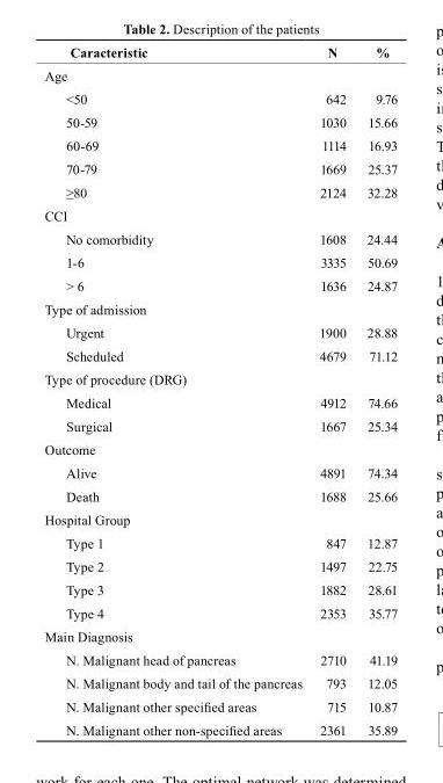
<table><thead><tr><td>caracteristic</td><td>N</td><td>%</td></tr></thead><tbody><tr><td colspan="3">Age</td></tr><tr><td>&lt;50</td><td>642</td><td>9.76</td></tr><tr><td>50-59</td><td>1030</td><td>15.66</td></tr><tr><td>60-69</td><td>1114</td><td>16.93</td></tr><tr><td>70-79</td><td>1669</td><td>25.37</td></tr><tr><td>≥80</td><td>2124</td><td>32.28</td></tr><tr><td colspan="3">CCI</td></tr><tr><td>No comorbidity</td><td>1608</td><td>24.44</td></tr><tr><td>1-6</td><td>3335</td><td>50.69</td></tr><tr><td>&gt; 6</td><td>1636</td><td>24.87</td></tr><tr><td colspan="3">Type of admission</td></tr><tr><td>Urgent</td><td>1900</td><td>28.88</td></tr><tr><td>Scheduled</td><td>4679</td><td>71.12</td></tr><tr><td colspan="3">Type of procedure (DRG)</td></tr><tr><td>Medical</td><td>4912</td><td>74.66</td></tr><tr><td>Surgical</td><td>1667</td><td>25.34</td></tr><tr><td colspan="3">Outcome</td></tr><tr><td>Alive</td><td>4891</td><td>74.34</td></tr><tr><td>Death</td><td>1688</td><td>25.66</td></tr><tr><td colspan="3">Hospital Group</td></tr><tr><td>Type 1</td><td>847</td><td>12.87</td></tr><tr><td>Type 2</td><td>1497</td><td>22.75</td></tr><tr><td>Type 3</td><td>1882</td><td>28.61</td></tr><tr><td>Type 4</td><td>2353</td><td>35.77</td></tr><tr><td colspan="3">Main Diagnosis</td></tr><tr><td>N. Malignant head of pancreas</td><td>2710</td><td>41.19</td></tr><tr><td>N. Malignant body and tail of the pancreas</td><td>793</td><td>12.05</td></tr><tr><td>N. Malignant other specified areas</td><td>715</td><td>10.87</td></tr><tr><td>N. Malignant other non-specified areas</td><td>2361</td><td>35.89</td></tr></tbody></table>